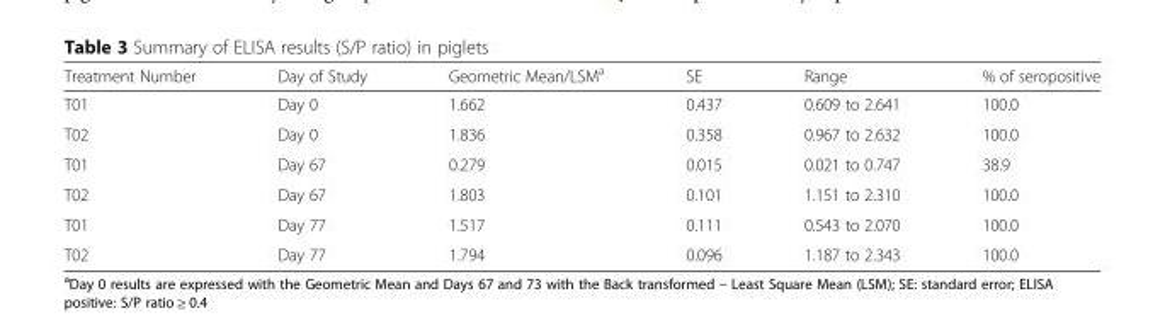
<table><thead><tr><td>Treatment Number</td><td>Day of Study</td><td>Geometric Mean/LSM<sup>a</sup></td><td>SE</td><td>Range</td><td>% of seropositive</td></tr></thead><tbody><tr><td>T01</td><td>Day 0</td><td>1.662</td><td>0.437</td><td>0.609 to 2.641</td><td>100.0</td></tr><tr><td>T02</td><td>Day 0</td><td>1.836</td><td>0.358</td><td>0.967 to 2.632</td><td>100.0</td></tr><tr><td>T01</td><td>Day 67</td><td>0.279</td><td>0.015</td><td>0.021 to 0.747</td><td>38.9</td></tr><tr><td>T02</td><td>Day 67</td><td>1.803</td><td>0.101</td><td>1.151 to 2.310</td><td>100.0</td></tr><tr><td>T01</td><td>Day 77</td><td>1.517</td><td>0.111</td><td>0.543 to 2.070</td><td>100.0</td></tr><tr><td>T02</td><td>Day 77</td><td>1.794</td><td>0.096</td><td>1.187 to 2.343</td><td>100.0</td></tr></tbody></table>